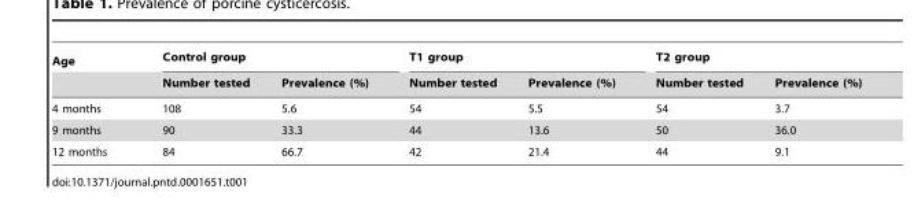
<table><thead><tr><td rowspan="2">Age</td><td colspan="2">Control group</td><td colspan="2">T1 group</td><td colspan="2">T2 group</td></tr><tr><td>Number tested</td><td>Prevalence (%)</td><td>Number tested</td><td>Prevalence (%)</td><td>Number tested</td><td>Prevalence (%)</td></tr></thead><tbody><tr><td>4 months</td><td>108</td><td>5.6</td><td>54</td><td>5.5</td><td>54</td><td>3.7</td></tr><tr><td>9 months</td><td>90</td><td>33.3</td><td>44</td><td>13.6</td><td>50</td><td>36.0</td></tr><tr><td>12 months</td><td>84</td><td>66.7</td><td>42</td><td>21.4</td><td>44</td><td>9.1</td></tr></tbody></table>